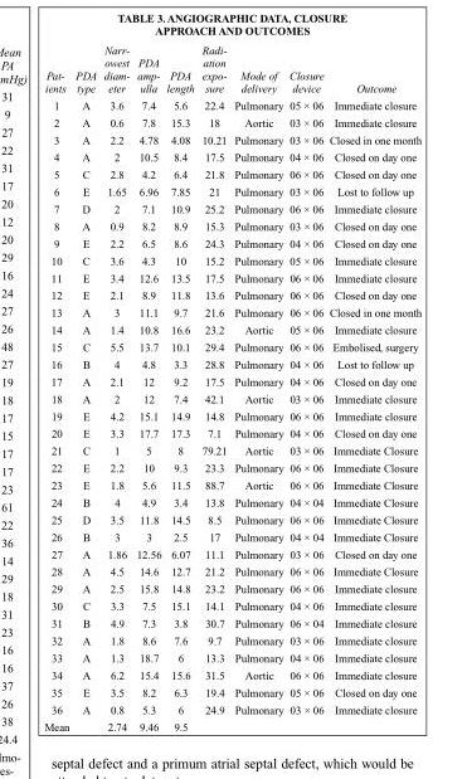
<table><thead><tr><td>Pat- ients</td><td>PDA type</td><td>Narr- owest diam- eter</td><td>PDA amp- ulla</td><td>PDA length</td><td>Radi- ation expo- sure</td><td>Mode of delivery</td><td>Closure device</td><td>Outcome</td></tr></thead><tbody><tr><td>1</td><td>A</td><td>3.6</td><td>7.4</td><td>5.6</td><td>22.4</td><td>Pulmonary</td><td>05 × 06</td><td>Immediate closure</td></tr><tr><td>2</td><td>A</td><td>0.6</td><td>7.8</td><td>15.3</td><td>18</td><td>Aortic</td><td>03 × 06</td><td>Immediate closure</td></tr><tr><td>3</td><td>A</td><td>2.2</td><td>4.78</td><td>4.08</td><td>10.21</td><td>Pulmonary</td><td>03 × 06</td><td>Closed in one month</td></tr><tr><td>4</td><td>A</td><td>2</td><td>10.5</td><td>8.4</td><td>17.5</td><td>Pulmonary</td><td>04 × 06</td><td>Closed on day one</td></tr><tr><td>5</td><td>C</td><td>2.8</td><td>4.2</td><td>6.4</td><td>21.8</td><td>Pulmonary</td><td>06 × 06</td><td>Closed on day one</td></tr><tr><td>6</td><td>E</td><td>1.65</td><td>6.96</td><td>7.85</td><td>21</td><td>Pulmonary</td><td>03 × 06</td><td>Lost to follow up</td></tr><tr><td>7</td><td>D</td><td>2</td><td>7.1</td><td>10.9</td><td>25.2</td><td>Pulmonary</td><td>06 × 06</td><td>Immediate closure</td></tr><tr><td>8</td><td>A</td><td>0.9</td><td>8.2</td><td>8.9</td><td>15.3</td><td>Pulmonary</td><td>03 × 06</td><td>Closed on day one</td></tr><tr><td>9</td><td>E</td><td>2.2</td><td>6.5</td><td>8.6</td><td>24.3</td><td>Pulmonary</td><td>04 × 06</td><td>Closed on day one</td></tr><tr><td>10</td><td>C</td><td>3.6</td><td>4.3</td><td>10</td><td>15.2</td><td>Pulmonary</td><td>05 × 06</td><td>Immediate closure</td></tr><tr><td>11</td><td>E</td><td>3.4</td><td>12.6</td><td>13.5</td><td>17.5</td><td>Pulmonary</td><td>06 × 06</td><td>Immediate closure</td></tr><tr><td>12</td><td>E</td><td>2.1</td><td>8.9</td><td>11.8</td><td>13.6</td><td>Pulmonary</td><td>06 × 06</td><td>Closed on day one</td></tr><tr><td>13</td><td>A</td><td>3</td><td>11.1</td><td>9.7</td><td>21.6</td><td>Pulmonary</td><td>06 × 06</td><td>Closed in one month</td></tr><tr><td>14</td><td>A</td><td>1.4</td><td>10.8</td><td>16.6</td><td>23.2</td><td>Aortic</td><td>05 × 06</td><td>Immediate closure</td></tr><tr><td>15</td><td>C</td><td>5.5</td><td>13.7</td><td>10.1</td><td>29.4</td><td>Pulmonary</td><td>06 × 06</td><td>Embolised, surgery</td></tr><tr><td>16</td><td>B</td><td>4</td><td>4.8</td><td>3.3</td><td>28.8</td><td>Pulmonary</td><td>04 × 06</td><td>Lost to follow up</td></tr><tr><td>17</td><td>A</td><td>2.1</td><td>12</td><td>9.2</td><td>17.5</td><td>Pulmonary</td><td>04 × 06</td><td>Closed on day one</td></tr><tr><td>18</td><td>A</td><td>2</td><td>12</td><td>7.4</td><td>42.1</td><td>Aortic</td><td>03 × 06</td><td>Immediate closure</td></tr><tr><td>19</td><td>E</td><td>4.2</td><td>15.1</td><td>14.9</td><td>14.8</td><td>Pulmonary</td><td>06 × 06</td><td>Immediate closure</td></tr><tr><td>20</td><td>E</td><td>3.3</td><td>17.7</td><td>17.3</td><td>7.1</td><td>Pulmonary</td><td>04 × 06</td><td>Closed on day one</td></tr><tr><td>21</td><td>C</td><td>1</td><td>5</td><td>8</td><td>79.21</td><td>Aortic</td><td>03 × 06</td><td>Immediate Closure</td></tr><tr><td>22</td><td>E</td><td>2.2</td><td>10</td><td>9.3</td><td>23.3</td><td>Pulmonary</td><td>06 × 06</td><td>Immediate Closure</td></tr><tr><td>23</td><td>E</td><td>1.8</td><td>5.6</td><td>11.5</td><td>88.7</td><td>Aortic</td><td>06 × 06</td><td>Immediate Closure</td></tr><tr><td>24</td><td>B</td><td>4</td><td>4.9</td><td>3.4</td><td>13.8</td><td>Pulmonary</td><td>04 × 04</td><td>Immediate Closure</td></tr><tr><td>25</td><td>D</td><td>3.5</td><td>11.8</td><td>14.5</td><td>8.5</td><td>Pulmonary</td><td>06 × 06</td><td>Immediate Closure</td></tr><tr><td>26</td><td>B</td><td>3</td><td>3</td><td>2.5</td><td>17</td><td>Pulmonary</td><td>04 × 04</td><td>Immediate Closure</td></tr><tr><td>27</td><td>A</td><td>1.86</td><td>12.56</td><td>6.07</td><td>11.1</td><td>Pulmonary</td><td>03 × 06</td><td>Closed on day one</td></tr><tr><td>28</td><td>A</td><td>4.5</td><td>14.6</td><td>12.7</td><td>21.2</td><td>Pulmonary</td><td>06 × 06</td><td>Immediate Closure</td></tr><tr><td>29</td><td>A</td><td>2.5</td><td>15.8</td><td>14.8</td><td>23.2</td><td>Pulmonary</td><td>06 × 06</td><td>Immediate closure</td></tr><tr><td>30</td><td>C</td><td>3.3</td><td>7.5</td><td>15.1</td><td>14.1</td><td>Pulmonary</td><td>04 × 06</td><td>Immediate closure</td></tr><tr><td>31</td><td>B</td><td>4.9</td><td>7.3</td><td>3.8</td><td>30.7</td><td>Pulmonary</td><td>06 × 04</td><td>Immediate closure</td></tr><tr><td>32</td><td>A</td><td>1.8</td><td>8.6</td><td>7.6</td><td>9.7</td><td>Pulmonary</td><td>03 × 06</td><td>Immediate closure</td></tr><tr><td>33</td><td>A</td><td>1.3</td><td>18.7</td><td>6</td><td>13.3</td><td>Pulmonary</td><td>04 × 06</td><td>Immediate closure</td></tr><tr><td>34</td><td>A</td><td>6.2</td><td>15.4</td><td>15.6</td><td>31.5</td><td>Aortic</td><td>06 × 06</td><td>Immediate closure</td></tr><tr><td>35</td><td>E</td><td>3.5</td><td>8.2</td><td>6.3</td><td>19.4</td><td>Pulmonary</td><td>05 × 06</td><td>Closed on day one</td></tr><tr><td>36</td><td>A</td><td>0.8</td><td>5.3</td><td>6</td><td>24.9</td><td>Pulmonary</td><td>03 × 06</td><td>Immediate closure</td></tr><tr><td>Mean</td><td></td><td>2.74</td><td>9.46</td><td>9.5</td><td></td><td></td><td></td><td></td></tr></tbody></table>